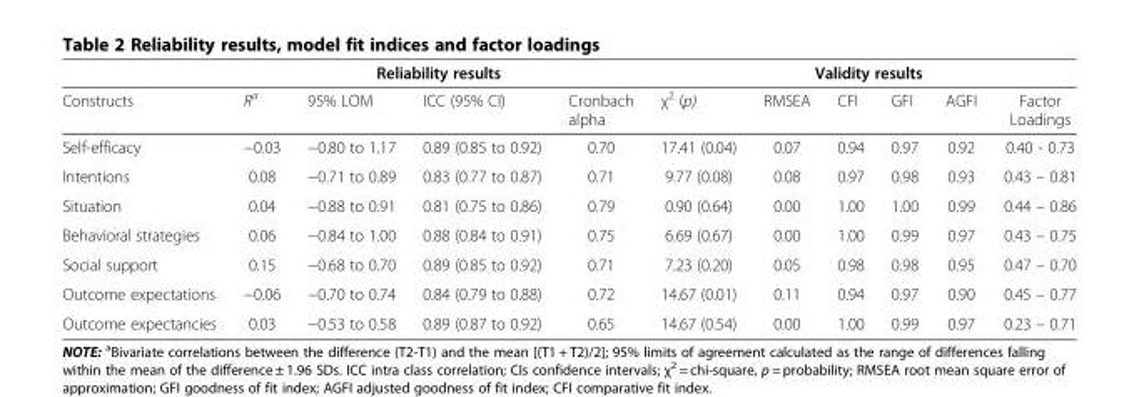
<table><thead><tr><td rowspan="2">Constructs</td><td colspan="4">Reliability results</td><td colspan="6">Validity results</td></tr><tr><td>R<sup>a</sup></td><td>95% LOM</td><td>ICC (95% CI)</td><td>Cronbach alpha</td><td>χ<sup>2</sup> (p)</td><td>RMSEA</td><td>CFI</td><td>GFI</td><td>AGFI</td><td>Factor Loadings</td></tr></thead><tbody><tr><td>Self-efficacy</td><td>−0.03</td><td>−0.80 to 1.17</td><td>0.89 (0.85 to 0.92)</td><td>0.70</td><td>17.41 (0.04)</td><td>0.07</td><td>0.94</td><td>0.97</td><td>0.92</td><td>0.40 - 0.73</td></tr><tr><td>Intentions</td><td>0.08</td><td>−0.71 to 0.89</td><td>0.83 (0.77 to 0.87)</td><td>0.71</td><td>9.77 (0.08)</td><td>0.08</td><td>0.97</td><td>0.98</td><td>0.93</td><td>0.43 – 0.81</td></tr><tr><td>Situation</td><td>0.04</td><td>−0.88 to 0.91</td><td>0.81 (0.75 to 0.86)</td><td>0.79</td><td>0.90 (0.64)</td><td>0.00</td><td>1.00</td><td>1.00</td><td>0.99</td><td>0.44 – 0.86</td></tr><tr><td>Behavioral strategies</td><td>0.06</td><td>−0.84 to 1.00</td><td>0.88 (0.84 to 0.91)</td><td>0.75</td><td>6.69 (0.67)</td><td>0.00</td><td>1.00</td><td>0.99</td><td>0.97</td><td>0.43 – 0.75</td></tr><tr><td>Social support</td><td>0.15</td><td>−0.68 to 0.70</td><td>0.89 (0.85 to 0.92)</td><td>0.71</td><td>7.23 (0.20)</td><td>0.05</td><td>0.98</td><td>0.98</td><td>0.95</td><td>0.47 – 0.70</td></tr><tr><td>Outcome expectations</td><td>−0.06</td><td>−0.70 to 0.74</td><td>0.84 (0.79 to 0.88)</td><td>0.72</td><td>14.67 (0.01)</td><td>0.11</td><td>0.94</td><td>0.97</td><td>0.90</td><td>0.45 – 0.77</td></tr><tr><td>Outcome expectancies</td><td>0.03</td><td>−0.53 to 0.58</td><td>0.89 (0.87 to 0.92)</td><td>0.65</td><td>14.67 (0.54)</td><td>0.00</td><td>1.00</td><td>0.99</td><td>0.97</td><td>0.23 – 0.71</td></tr></tbody></table>